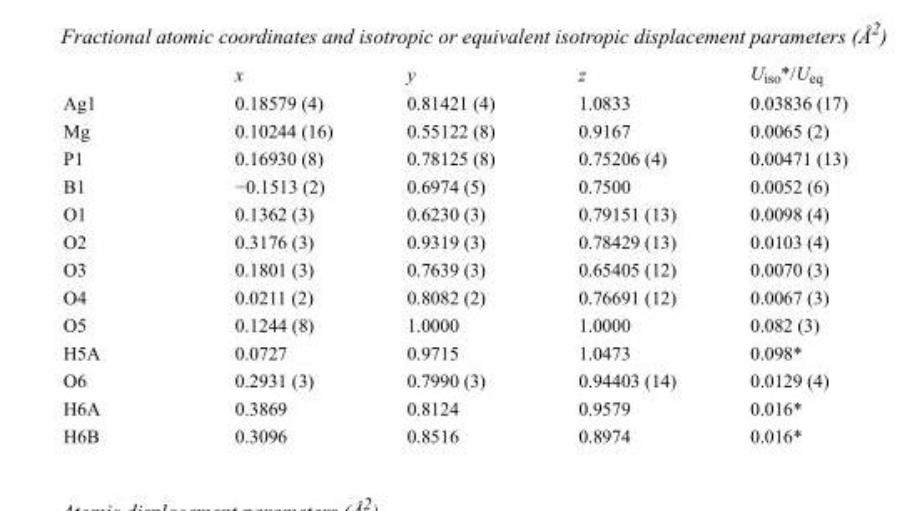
<table><thead><tr><td></td><td>x</td><td>y</td><td>z</td><td>U<sub>iso</sub>*/U<sub>eq</sub></td></tr></thead><tbody><tr><td>Ag1</td><td>0.18579 (4)</td><td>0.81421 (4)</td><td>1.0833</td><td>0.03836 (17)</td></tr><tr><td>Mg</td><td>0.10244 (16)</td><td>0.55122 (8)</td><td>0.9167</td><td>0.0065 (2)</td></tr><tr><td>P1</td><td>0.16930 (8)</td><td>0.78125 (8)</td><td>0.75206 (4)</td><td>0.00471 (13)</td></tr><tr><td>B1</td><td>−0.1513 (2)</td><td>0.6974 (5)</td><td>0.7500</td><td>0.0052 (6)</td></tr><tr><td>O1</td><td>0.1362 (3)</td><td>0.6230 (3)</td><td>0.79151 (13)</td><td>0.0098 (4)</td></tr><tr><td>O2</td><td>0.3176 (3)</td><td>0.9319 (3)</td><td>0.78429 (13)</td><td>0.0103 (4)</td></tr><tr><td>O3</td><td>0.1801 (3)</td><td>0.7639 (3)</td><td>0.65405 (12)</td><td>0.0070 (3)</td></tr><tr><td>O4</td><td>0.0211 (2)</td><td>0.8082 (2)</td><td>0.76691 (12)</td><td>0.0067 (3)</td></tr><tr><td>O5</td><td>0.1244 (8)</td><td>1.0000</td><td>1.0000</td><td>0.082 (3)</td></tr><tr><td>H5A</td><td>0.0727</td><td>0.9715</td><td>1.0473</td><td>0.098*</td></tr><tr><td>O6</td><td>0.2931 (3)</td><td>0.7990 (3)</td><td>0.94403 (14)</td><td>0.0129 (4)</td></tr><tr><td>H6A</td><td>0.3869</td><td>0.8124</td><td>0.9579</td><td>0.016*</td></tr><tr><td>H6B</td><td>0.3096</td><td>0.8516</td><td>0.8974</td><td>0.016*</td></tr></tbody></table>